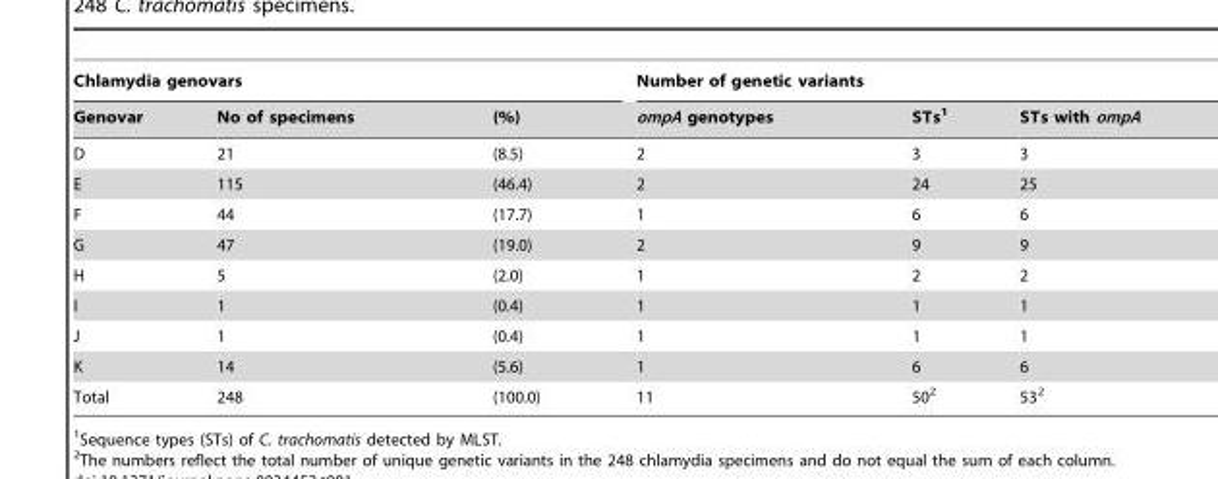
<table><thead><tr><td colspan="3">Chlamydia genovars</td><td colspan="3">Number of genetic variants</td></tr><tr><td>Genovar</td><td>No of specimens</td><td>(%)</td><td>ompA genotypes</td><td>STs<sup>1</sup></td><td>STs with ompA</td></tr></thead><tbody><tr><td>D</td><td>21</td><td>(8.5)</td><td>2</td><td>3</td><td>3</td></tr><tr><td>E</td><td>115</td><td>(46.4)</td><td>2</td><td>24</td><td>25</td></tr><tr><td>F</td><td>44</td><td>(17.7)</td><td>1</td><td>6</td><td>6</td></tr><tr><td>G</td><td>47</td><td>(19.0)</td><td>2</td><td>9</td><td>9</td></tr><tr><td>H</td><td>5</td><td>(2.0)</td><td>1</td><td>2</td><td>2</td></tr><tr><td>I</td><td>1</td><td>(0.4)</td><td>1</td><td>1</td><td>1</td></tr><tr><td>J</td><td>1</td><td>(0.4)</td><td>1</td><td>1</td><td>1</td></tr><tr><td>K</td><td>14</td><td>(5.6)</td><td>1</td><td>6</td><td>6</td></tr><tr><td>Total</td><td>248</td><td>(100.0)</td><td>11</td><td>50<sup>2</sup></td><td>53<sup>2</sup></td></tr></tbody></table>